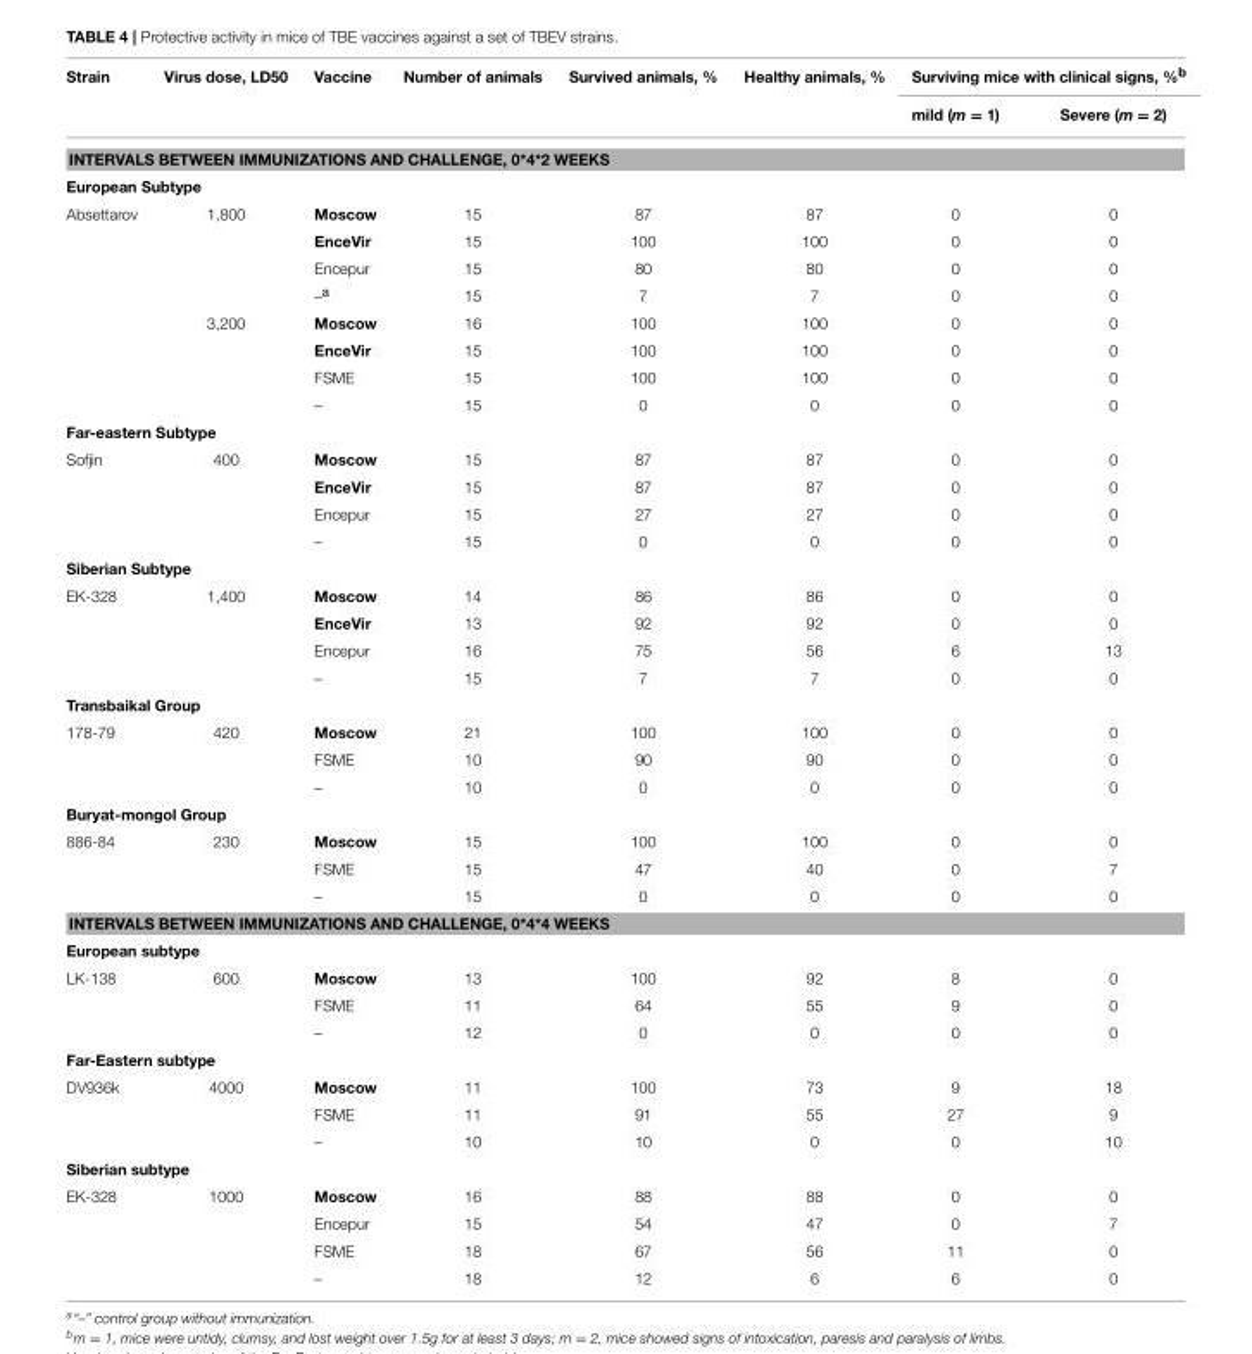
<table><thead><tr><td rowspan="2">Strain</td><td rowspan="2">Virus dose, LD50</td><td rowspan="2">Vaccine</td><td rowspan="2">Number of animals</td><td rowspan="2">Survived animals, %</td><td rowspan="2">Healthy animals, %</td><td colspan="2">Surviving mice with clinical signs, %<sup>b</sup></td></tr><tr><td>mild (m = 1)</td><td>Severe (m = 2)</td></tr></thead><tbody><tr><td colspan="8">INTERVALS BETWEEN IMMUNIZATIONS AND CHALLENGE, 0*4*2 WEEKS</td></tr><tr><td colspan="8">European Subtype</td></tr><tr><td rowspan="8">Absettarov</td><td>1,800</td><td>Moscow</td><td>15</td><td>87</td><td>87</td><td>0</td><td>0</td></tr><tr><td></td><td>EnceVir</td><td>15</td><td>100</td><td>100</td><td>0</td><td>0</td></tr><tr><td></td><td>Encepur</td><td>15</td><td>80</td><td>80</td><td>0</td><td>0</td></tr><tr><td></td><td>–<sup>a</sup></td><td>15</td><td>7</td><td>7</td><td>0</td><td>0</td></tr><tr><td>3,200</td><td>Moscow</td><td>16</td><td>100</td><td>100</td><td>0</td><td>0</td></tr><tr><td></td><td>EnceVir</td><td>15</td><td>100</td><td>100</td><td>0</td><td>0</td></tr><tr><td></td><td>FSME</td><td>15</td><td>100</td><td>100</td><td>0</td><td>0</td></tr><tr><td></td><td>–</td><td>15</td><td>0</td><td>0</td><td>0</td><td>0</td></tr><tr><td colspan="8">Far-eastern Subtype</td></tr><tr><td rowspan="4">Sofjin</td><td>400</td><td>Moscow</td><td>15</td><td>87</td><td>87</td><td>0</td><td>0</td></tr><tr><td></td><td>EnceVir</td><td>15</td><td>87</td><td>87</td><td>0</td><td>0</td></tr><tr><td></td><td>Encepur</td><td>15</td><td>27</td><td>27</td><td>0</td><td>0</td></tr><tr><td></td><td>–</td><td>15</td><td>0</td><td>0</td><td>0</td><td>0</td></tr><tr><td colspan="8">Siberian Subtype</td></tr><tr><td rowspan="4">EK-328</td><td>1,400</td><td>Moscow</td><td>14</td><td>86</td><td>86</td><td>0</td><td>0</td></tr><tr><td></td><td>EnceVir</td><td>13</td><td>92</td><td>92</td><td>0</td><td>0</td></tr><tr><td></td><td>Encepur</td><td>16</td><td>75</td><td>56</td><td>6</td><td>13</td></tr><tr><td></td><td>–</td><td>15</td><td>7</td><td>7</td><td>0</td><td>0</td></tr><tr><td colspan="8">Transbaikal Group</td></tr><tr><td rowspan="3">178-79</td><td>420</td><td>Moscow</td><td>21</td><td>100</td><td>100</td><td>0</td><td>0</td></tr><tr><td></td><td>FSME</td><td>10</td><td>90</td><td>90</td><td>0</td><td>0</td></tr><tr><td></td><td>–</td><td>10</td><td>0</td><td>0</td><td>0</td><td>0</td></tr><tr><td colspan="8">Buryat-mongol Group</td></tr><tr><td rowspan="3">886-84</td><td>230</td><td>Moscow</td><td>15</td><td>100</td><td>100</td><td>0</td><td>0</td></tr><tr><td></td><td>FSME</td><td>15</td><td>47</td><td>40</td><td>0</td><td>7</td></tr><tr><td></td><td>–</td><td>15</td><td>0</td><td>0</td><td>0</td><td>0</td></tr><tr><td colspan="8">INTERVALS BETWEEN IMMUNIZATIONS AND CHALLENGE, 0*4*4 WEEKS</td></tr><tr><td colspan="8">European subtype</td></tr><tr><td rowspan="3">LK-138</td><td>600</td><td>Moscow</td><td>13</td><td>100</td><td>92</td><td>8</td><td>0</td></tr><tr><td></td><td>FSME</td><td>11</td><td>64</td><td>55</td><td>9</td><td>0</td></tr><tr><td></td><td>–</td><td>12</td><td>0</td><td>0</td><td>0</td><td>0</td></tr><tr><td colspan="8">Far-Eastern subtype</td></tr><tr><td rowspan="3">DV936k</td><td>4000</td><td>Moscow</td><td>11</td><td>100</td><td>73</td><td>9</td><td>18</td></tr><tr><td></td><td>FSME</td><td>11</td><td>91</td><td>55</td><td>27</td><td>9</td></tr><tr><td></td><td>–</td><td>10</td><td>10</td><td>0</td><td>0</td><td>10</td></tr><tr><td colspan="8">Siberian subtype</td></tr><tr><td rowspan="4">EK-328</td><td>1000</td><td>Moscow</td><td>16</td><td>88</td><td>88</td><td>0</td><td>0</td></tr><tr><td></td><td>Encepur</td><td>15</td><td>54</td><td>47</td><td>0</td><td>7</td></tr><tr><td></td><td>FSME</td><td>18</td><td>67</td><td>56</td><td>11</td><td>0</td></tr><tr><td></td><td>–</td><td>18</td><td>12</td><td>6</td><td>6</td><td>0</td></tr></tbody></table>